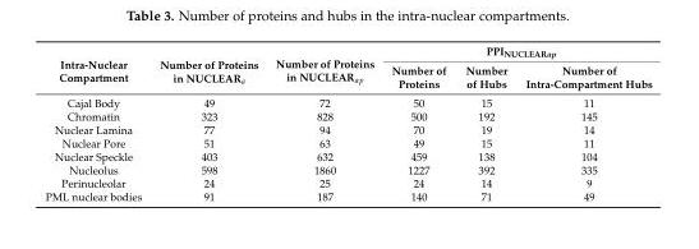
<table><thead><tr><td rowspan="2">Intra-Nuclear Compartment</td><td rowspan="2">Number of Proteins in NUCLEAR<sub>a</sub></td><td rowspan="2">Number of Proteins in NUCLEAR<sub>ap</sub></td><td colspan="3">PPI<sub>NUCLEARap</sub></td></tr><tr><td>Number of Proteins</td><td>Number of Hubs</td><td>Number of Intra-Compartment Hubs</td></tr></thead><tbody><tr><td>Cajal Body</td><td>49</td><td>72</td><td>50</td><td>15</td><td>11</td></tr><tr><td>Chromatin</td><td>323</td><td>828</td><td>500</td><td>192</td><td>145</td></tr><tr><td>Nuclear Lamina</td><td>77</td><td>94</td><td>70</td><td>19</td><td>14</td></tr><tr><td>Nuclear Pore</td><td>51</td><td>63</td><td>49</td><td>15</td><td>11</td></tr><tr><td>Nuclear Speckle</td><td>403</td><td>632</td><td>459</td><td>138</td><td>104</td></tr><tr><td>Nucleolus</td><td>598</td><td>1860</td><td>1227</td><td>392</td><td>335</td></tr><tr><td>Perinucleolar</td><td>24</td><td>25</td><td>24</td><td>14</td><td>9</td></tr><tr><td>PML nuclear bodies</td><td>91</td><td>187</td><td>140</td><td>71</td><td>49</td></tr></tbody></table>